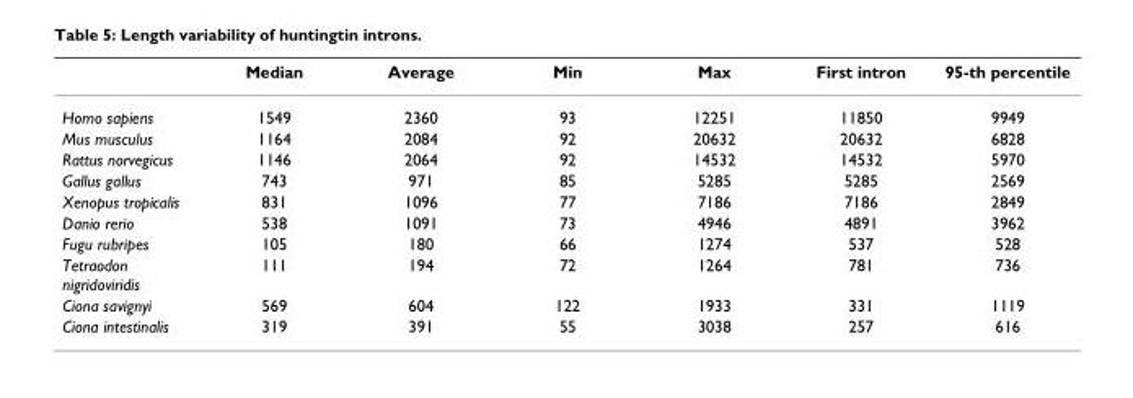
<table><thead><tr><td></td><td>Median</td><td>Average</td><td>Min</td><td>Max</td><td>First intron</td><td>95-th percentile</td></tr></thead><tbody><tr><td>Homo sapiens</td><td>1549</td><td>2360</td><td>93</td><td>12251</td><td>11850</td><td>9949</td></tr><tr><td>Mus musculus</td><td>1164</td><td>2084</td><td>92</td><td>20632</td><td>20632</td><td>6828</td></tr><tr><td>Rattus norvegicus</td><td>1146</td><td>2064</td><td>92</td><td>14532</td><td>14532</td><td>5970</td></tr><tr><td>Gallus gallus</td><td>743</td><td>971</td><td>85</td><td>5285</td><td>5285</td><td>2569</td></tr><tr><td>Xenopus tropicalis</td><td>831</td><td>1096</td><td>77</td><td>7186</td><td>7186</td><td>2849</td></tr><tr><td>Danio rerio</td><td>538</td><td>1091</td><td>73</td><td>4946</td><td>4891</td><td>3962</td></tr><tr><td>Fugu rubripes</td><td>105</td><td>180</td><td>66</td><td>1274</td><td>537</td><td>528</td></tr><tr><td>Tetraodon nigridoviridis</td><td>111</td><td>194</td><td>72</td><td>1264</td><td>781</td><td>736</td></tr><tr><td>Ciona savignyi</td><td>569</td><td>604</td><td>122</td><td>1933</td><td>331</td><td>1119</td></tr><tr><td>Ciona intestinalis</td><td>319</td><td>391</td><td>55</td><td>3038</td><td>257</td><td>616</td></tr></tbody></table>